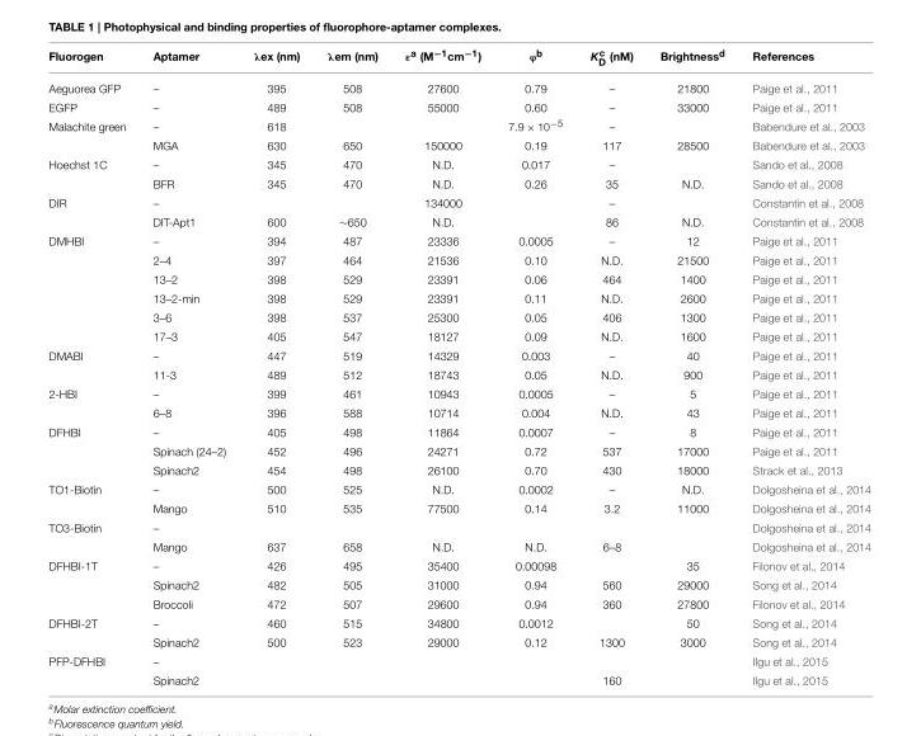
<table><thead><tr><td>Fluorogen</td><td>Aptamer</td><td>λex (nm)</td><td>λem (nm)</td><td>ε<sup>a</sup> (M<sup>−1</sup>cm<sup>−1</sup>)</td><td>ϕ<sup>b</sup></td><td>K<sup>c</sup> <sub>D</sub> (nM)</td><td>Brightness<sup>d</sup></td><td>References</td></tr></thead><tbody><tr><td>Aeguorea GFP</td><td>–</td><td>395</td><td>508</td><td>27600</td><td>0.79</td><td>–</td><td>21800</td><td>Paige et al., 2011</td></tr><tr><td>EGFP</td><td>–</td><td>489</td><td>508</td><td>55000</td><td>0.60</td><td>–</td><td>33000</td><td>Paige et al., 2011</td></tr><tr><td rowspan="2">Malachite green</td><td>–</td><td>618</td><td></td><td></td><td>7.9 × 10<sup>−5</sup></td><td>–</td><td></td><td>Babendure et al., 2003</td></tr><tr><td>MGA</td><td>630</td><td>650</td><td>150000</td><td>0.19</td><td>117</td><td>28500</td><td>Babendure et al., 2003</td></tr><tr><td rowspan="2">Hoechst 1C</td><td>–</td><td>345</td><td>470</td><td>N.D.</td><td>0.017</td><td>–</td><td></td><td>Sando et al., 2008</td></tr><tr><td>BFR</td><td>345</td><td>470</td><td>N.D.</td><td>0.26</td><td>35</td><td>N.D.</td><td>Sando et al., 2008</td></tr><tr><td rowspan="2">DIR</td><td>–</td><td></td><td></td><td>134000</td><td></td><td>–</td><td></td><td>Constantin et al., 2008</td></tr><tr><td>DIT-Apt1</td><td>600</td><td>∼650</td><td>N.D.</td><td></td><td>86</td><td>N.D.</td><td>Constantin et al., 2008</td></tr><tr><td rowspan="6">DMHBI</td><td>–</td><td>394</td><td>487</td><td>23336</td><td>0.0005</td><td>–</td><td>12</td><td>Paige et al., 2011</td></tr><tr><td>2–4</td><td>397</td><td>464</td><td>21536</td><td>0.10</td><td>N.D.</td><td>21500</td><td>Paige et al., 2011</td></tr><tr><td>13–2</td><td>398</td><td>529</td><td>23391</td><td>0.06</td><td>464</td><td>1400</td><td>Paige et al., 2011</td></tr><tr><td>13–2-min</td><td>398</td><td>529</td><td>23391</td><td>0.11</td><td>N.D.</td><td>2600</td><td>Paige et al., 2011</td></tr><tr><td>3–6</td><td>398</td><td>537</td><td>25300</td><td>0.05</td><td>406</td><td>1300</td><td>Paige et al., 2011</td></tr><tr><td>17–3</td><td>405</td><td>547</td><td>18127</td><td>0.09</td><td>N.D.</td><td>1600</td><td>Paige et al., 2011</td></tr><tr><td rowspan="2">DMABI</td><td>–</td><td>447</td><td>519</td><td>14329</td><td>0.003</td><td>–</td><td>40</td><td>Paige et al., 2011</td></tr><tr><td>11-3</td><td>489</td><td>512</td><td>18743</td><td>0.05</td><td>N.D.</td><td>900</td><td>Paige et al., 2011</td></tr><tr><td rowspan="2">2-HBI</td><td>–</td><td>399</td><td>461</td><td>10943</td><td>0.0005</td><td>–</td><td>5</td><td>Paige et al., 2011</td></tr><tr><td>6–8</td><td>396</td><td>588</td><td>10714</td><td>0.004</td><td>N.D.</td><td>43</td><td>Paige et al., 2011</td></tr><tr><td rowspan="3">DFHBI</td><td>–</td><td>405</td><td>498</td><td>11864</td><td>0.0007</td><td>–</td><td>8</td><td>Paige et al., 2011</td></tr><tr><td>Spinach (24–2)</td><td>452</td><td>496</td><td>24271</td><td>0.72</td><td>537</td><td>17000</td><td>Paige et al., 2011</td></tr><tr><td>Spinach2</td><td>454</td><td>498</td><td>26100</td><td>0.70</td><td>430</td><td>18000</td><td>Strack et al., 2013</td></tr><tr><td rowspan="2">TO1-Biotin</td><td>–</td><td>500</td><td>525</td><td>N.D.</td><td>0.0002</td><td>–</td><td>N.D.</td><td>Dolgosheina et al., 2014</td></tr><tr><td>Mango</td><td>510</td><td>535</td><td>77500</td><td>0.14</td><td>3.2</td><td>11000</td><td>Dolgosheina et al., 2014</td></tr><tr><td rowspan="2">TO3-Biotin</td><td>–</td><td></td><td></td><td></td><td></td><td></td><td></td><td>Dolgosheina et al., 2014</td></tr><tr><td>Mango</td><td>637</td><td>658</td><td>N.D.</td><td>N.D.</td><td>6–8</td><td></td><td>Dolgosheina et al., 2014</td></tr><tr><td rowspan="3">DFHBI-1T</td><td>–</td><td>426</td><td>495</td><td>35400</td><td>0.00098</td><td></td><td>35</td><td>Filonov et al., 2014</td></tr><tr><td>Spinach2</td><td>482</td><td>505</td><td>31000</td><td>0.94</td><td>560</td><td>29000</td><td>Song et al., 2014</td></tr><tr><td>Broccoli</td><td>472</td><td>507</td><td>29600</td><td>0.94</td><td>360</td><td>27800</td><td>Filonov et al., 2014</td></tr><tr><td rowspan="2">DFHBI-2T</td><td>–</td><td>460</td><td>515</td><td>34800</td><td>0.0012</td><td></td><td>50</td><td>Song et al., 2014</td></tr><tr><td>Spinach2</td><td>500</td><td>523</td><td>29000</td><td>0.12</td><td>1300</td><td>3000</td><td>Song et al., 2014</td></tr><tr><td rowspan="2">PFP-DFHBI</td><td>–</td><td></td><td></td><td></td><td></td><td></td><td></td><td>Ilgu et al., 2015</td></tr><tr><td>Spinach2</td><td></td><td></td><td></td><td></td><td>160</td><td></td><td>Ilgu et al., 2015</td></tr></tbody></table>